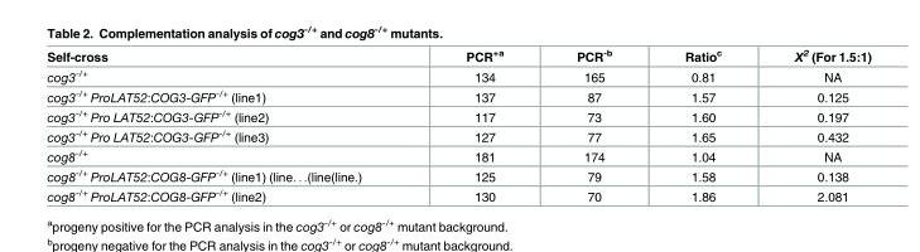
<table><thead><tr><td>Self-cross</td><td>PCR<sup>+a</sup></td><td>PCR<sup>-b</sup></td><td>Ratio<sup>c</sup></td><td>X<sup>2</sup> (For 1.5:1)</td></tr></thead><tbody><tr><td>cog3<sup>-/+</sup></td><td>134</td><td>165</td><td>0.81</td><td>NA</td></tr><tr><td>cog3<sup>-/+</sup> ProLAT52:COG3-GFP<sup>-/+</sup> (line1)</td><td>137</td><td>87</td><td>1.57</td><td>0.125</td></tr><tr><td>cog3<sup>-/+</sup> Pro LAT52:COG3-GFP<sup>-/+</sup> (line2)</td><td>117</td><td>73</td><td>1.60</td><td>0.197</td></tr><tr><td>cog3<sup>-/+</sup> Pro LAT52:COG3-GFP<sup>-/+</sup> (line3)</td><td>127</td><td>77</td><td>1.65</td><td>0.432</td></tr><tr><td>cog8<sup>-/+</sup></td><td>181</td><td>174</td><td>1.04</td><td>NA</td></tr><tr><td>cog8<sup>-/+</sup> ProLAT52:COG8-GFP<sup>-/+</sup> (line1) (line. . .(line(line.)</td><td>125</td><td>79</td><td>1.58</td><td>0.138</td></tr><tr><td>cog8<sup>-/+</sup> ProLAT52:COG8-GFP<sup>-/+</sup> (line2)</td><td>130</td><td>70</td><td>1.86</td><td>2.081</td></tr></tbody></table>